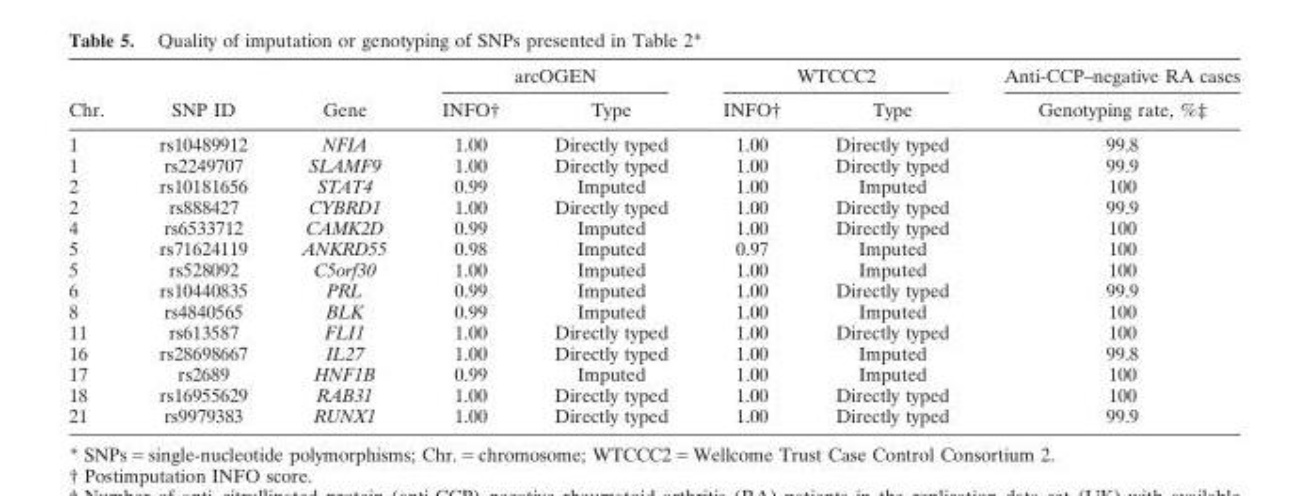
<table><thead><tr><td rowspan="2">Chr.</td><td rowspan="2">SNP ID</td><td rowspan="2">Gene</td><td colspan="2">arcOGEN</td><td colspan="2">WTCCC2</td><td rowspan="2">Anti-CCP–negative RA cases Genotyping rate, %‡</td></tr><tr><td>INFO†</td><td>Type</td><td>INFO†</td><td>Type</td></tr></thead><tbody><tr><td>1</td><td>rs10489912</td><td>NFIA</td><td>1.00</td><td>Directly typed</td><td>1.00</td><td>Directly typed</td><td>99.8</td></tr><tr><td>1</td><td>rs2249707</td><td>SLAMF9</td><td>1.00</td><td>Directly typed</td><td>1.00</td><td>Directly typed</td><td>99.9</td></tr><tr><td>2</td><td>rs10181656</td><td>STAT4</td><td>0.99</td><td>Imputed</td><td>1.00</td><td>Imputed</td><td>100</td></tr><tr><td>2</td><td>rs888427</td><td>CYBRD1</td><td>1.00</td><td>Directly typed</td><td>1.00</td><td>Directly typed</td><td>99.9</td></tr><tr><td>4</td><td>rs6533712</td><td>CAMK2D</td><td>0.99</td><td>Imputed</td><td>1.00</td><td>Directly typed</td><td>100</td></tr><tr><td>5</td><td>rs71624119</td><td>ANKRD55</td><td>0.98</td><td>Imputed</td><td>0.97</td><td>Imputed</td><td>100</td></tr><tr><td>5</td><td>rs528092</td><td>C5orf30</td><td>1.00</td><td>Imputed</td><td>1.00</td><td>Imputed</td><td>100</td></tr><tr><td>6</td><td>rs10440835</td><td>PRL</td><td>0.99</td><td>Imputed</td><td>1.00</td><td>Directly typed</td><td>99.9</td></tr><tr><td>8</td><td>rs4840565</td><td>BLK</td><td>0.99</td><td>Imputed</td><td>1.00</td><td>Imputed</td><td>100</td></tr><tr><td>11</td><td>rs613587</td><td>FLI1</td><td>1.00</td><td>Directly typed</td><td>1.00</td><td>Directly typed</td><td>100</td></tr><tr><td>16</td><td>rs28698667</td><td>IL27</td><td>1.00</td><td>Directly typed</td><td>1.00</td><td>Imputed</td><td>99.8</td></tr><tr><td>17</td><td>rs2689</td><td>HNF1B</td><td>0.99</td><td>Imputed</td><td>1.00</td><td>Imputed</td><td>100</td></tr><tr><td>18</td><td>rs16955629</td><td>RAB31</td><td>1.00</td><td>Directly typed</td><td>1.00</td><td>Directly typed</td><td>100</td></tr><tr><td>21</td><td>rs9979383</td><td>RUNX1</td><td>1.00</td><td>Directly typed</td><td>1.00</td><td>Directly typed</td><td>99.9</td></tr></tbody></table>